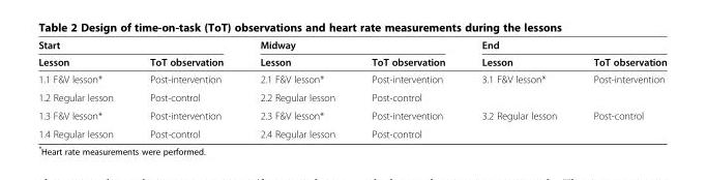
<table><thead><tr><td colspan="2">Start</td><td colspan="2">Midway</td><td colspan="2">End</td></tr><tr><td>Lesson</td><td>ToT observation</td><td>Lesson</td><td>ToT observation</td><td>Lesson</td><td>ToT observation</td></tr></thead><tbody><tr><td>1.1 F&amp;V lesson*</td><td>Post-intervention</td><td>2.1 F&amp;V lesson*</td><td>Post-intervention</td><td>3.1 F&amp;V lesson*</td><td>Post-intervention</td></tr><tr><td>1.2 Regular lesson</td><td>Post-control</td><td>2.2 Regular lesson</td><td>Post-control</td><td></td><td></td></tr><tr><td>1.3 F&amp;V lesson*</td><td>Post-intervention</td><td>2.3 F&amp;V lesson*</td><td>Post-intervention</td><td>3.2 Regular lesson</td><td>Post-control</td></tr><tr><td>1.4 Regular lesson</td><td>Post-control</td><td>2.4 Regular lesson</td><td>Post-control</td><td></td><td></td></tr></tbody></table>